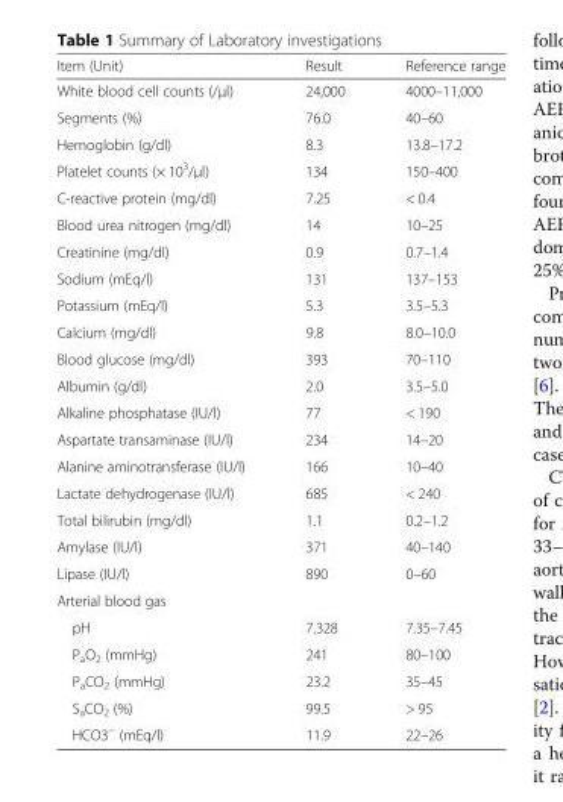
<table><thead><tr><td>Item (Unit)</td><td>Result</td><td>Reference range</td></tr></thead><tbody><tr><td>White blood cell counts (/μl)</td><td>24,000</td><td>4000–11,000</td></tr><tr><td>Segments (%)</td><td>76.0</td><td>40–60</td></tr><tr><td>Hemoglobin (g/dl)</td><td>8.3</td><td>13.8–17.2</td></tr><tr><td>Platelet counts (× 10<sup>3</sup>/μl)</td><td>134</td><td>150–400</td></tr><tr><td>C-reactive protein (mg/dl)</td><td>7.25</td><td>&lt; 0.4</td></tr><tr><td>Blood urea nitrogen (mg/dl)</td><td>14</td><td>10–25</td></tr><tr><td>Creatinine (mg/dl)</td><td>0.9</td><td>0.7–1.4</td></tr><tr><td>Sodium (mEq/l)</td><td>131</td><td>137–153</td></tr><tr><td>Potassium (mEq/l)</td><td>5.3</td><td>3.5–5.3</td></tr><tr><td>Calcium (mg/dl)</td><td>9.8</td><td>8.0–10.0</td></tr><tr><td>Blood glucose (mg/dl)</td><td>393</td><td>70–110</td></tr><tr><td>Albumin (g/dl)</td><td>2.0</td><td>3.5–5.0</td></tr><tr><td>Alkaline phosphatase (IU/l)</td><td>77</td><td>&lt; 190</td></tr><tr><td>Aspartate transaminase (IU/l)</td><td>234</td><td>14–20</td></tr><tr><td>Alanine aminotransferase (IU/l)</td><td>166</td><td>10–40</td></tr><tr><td>Lactate dehydrogenase (IU/l)</td><td>685</td><td>&lt; 240</td></tr><tr><td>Total bilirubin (mg/dl)</td><td>1.1</td><td>0.2–1.2</td></tr><tr><td>Amylase (IU/l)</td><td>371</td><td>40–140</td></tr><tr><td>Lipase (IU/l)</td><td>890</td><td>0–60</td></tr><tr><td colspan="3">Arterial blood gas</td></tr><tr><td>pH</td><td>7.328</td><td>7.35–7.45</td></tr><tr><td>P<sub>a</sub>O<sub>2</sub> (mmHg)</td><td>241</td><td>80–100</td></tr><tr><td>P<sub>a</sub>CO<sub>2</sub> (mmHg)</td><td>23.2</td><td>35–45</td></tr><tr><td>S<sub>a</sub>CO<sub>2</sub> (%)</td><td>99.5</td><td>&gt; 95</td></tr><tr><td>HCO3<sup>−</sup> (mEq/l)</td><td>11.9</td><td>22–26</td></tr></tbody></table>